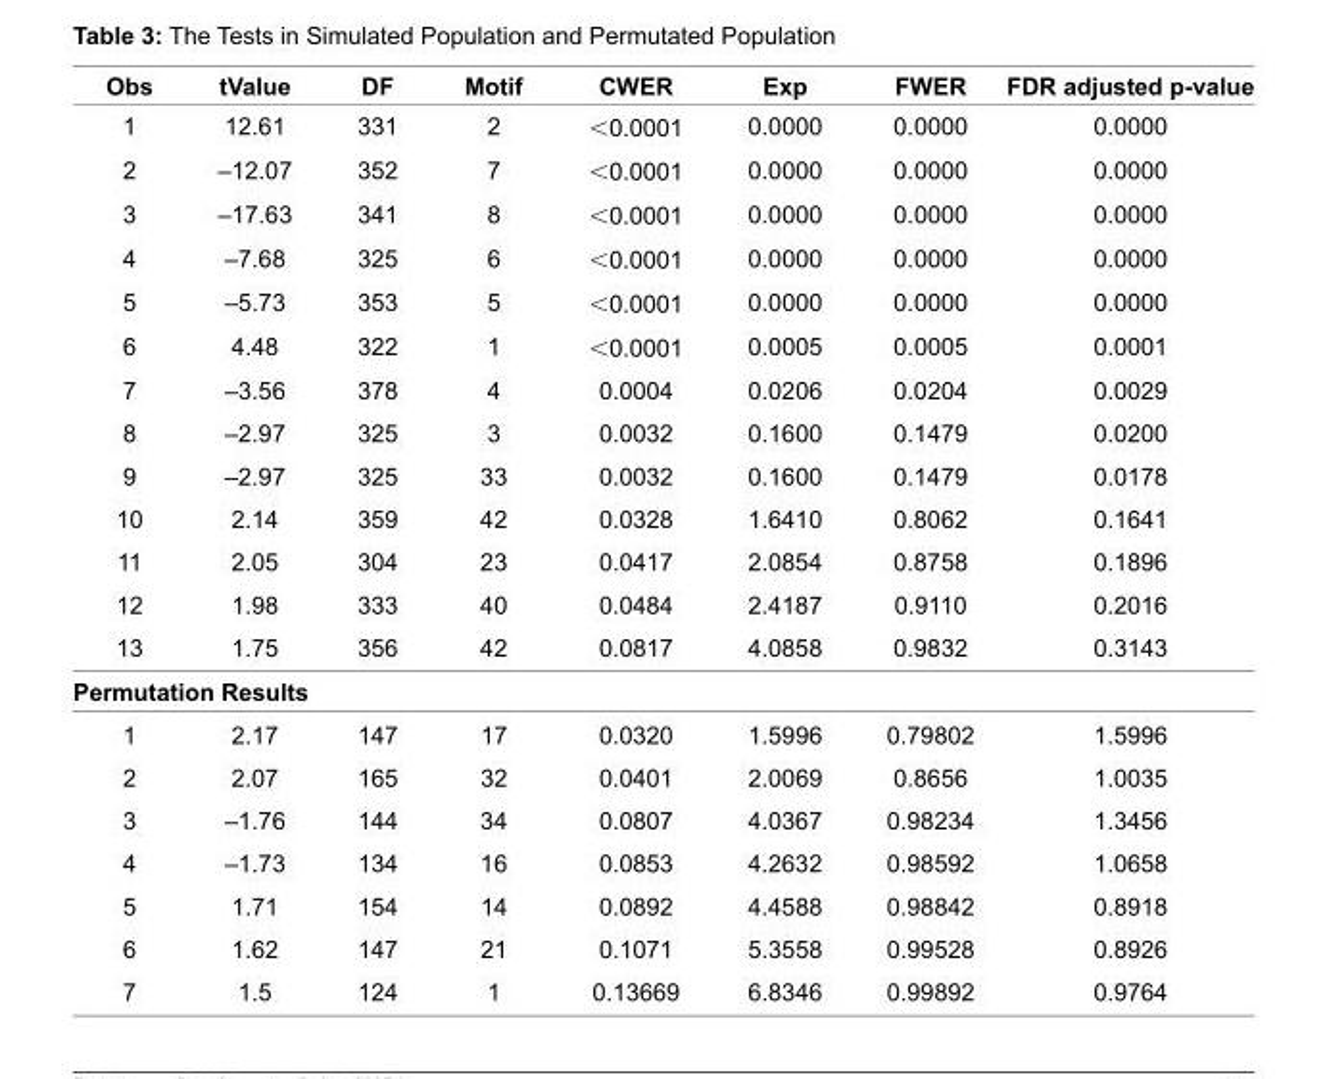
<table><thead><tr><td>Obs</td><td>tValue</td><td>DF</td><td>Motif</td><td>CWER</td><td>Exp</td><td>FWER</td><td>FDR adjusted p-value</td></tr></thead><tbody><tr><td>1</td><td>12.61</td><td>331</td><td>2</td><td>&lt;0.0001</td><td>0.0000</td><td>0.0000</td><td>0.0000</td></tr><tr><td>2</td><td>–12.07</td><td>352</td><td>7</td><td>&lt;0.0001</td><td>0.0000</td><td>0.0000</td><td>0.0000</td></tr><tr><td>3</td><td>–17.63</td><td>341</td><td>8</td><td>&lt;0.0001</td><td>0.0000</td><td>0.0000</td><td>0.0000</td></tr><tr><td>4</td><td>–7.68</td><td>325</td><td>6</td><td>&lt;0.0001</td><td>0.0000</td><td>0.0000</td><td>0.0000</td></tr><tr><td>5</td><td>–5.73</td><td>353</td><td>5</td><td>&lt;0.0001</td><td>0.0000</td><td>0.0000</td><td>0.0000</td></tr><tr><td>6</td><td>4.48</td><td>322</td><td>1</td><td>&lt;0.0001</td><td>0.0005</td><td>0.0005</td><td>0.0001</td></tr><tr><td>7</td><td>–3.56</td><td>378</td><td>4</td><td>0.0004</td><td>0.0206</td><td>0.0204</td><td>0.0029</td></tr><tr><td>8</td><td>–2.97</td><td>325</td><td>3</td><td>0.0032</td><td>0.1600</td><td>0.1479</td><td>0.0200</td></tr><tr><td>9</td><td>–2.97</td><td>325</td><td>33</td><td>0.0032</td><td>0.1600</td><td>0.1479</td><td>0.0178</td></tr><tr><td>10</td><td>2.14</td><td>359</td><td>42</td><td>0.0328</td><td>1.6410</td><td>0.8062</td><td>0.1641</td></tr><tr><td>11</td><td>2.05</td><td>304</td><td>23</td><td>0.0417</td><td>2.0854</td><td>0.8758</td><td>0.1896</td></tr><tr><td>12</td><td>1.98</td><td>333</td><td>40</td><td>0.0484</td><td>2.4187</td><td>0.9110</td><td>0.2016</td></tr><tr><td>13</td><td>1.75</td><td>356</td><td>42</td><td>0.0817</td><td>4.0858</td><td>0.9832</td><td>0.3143</td></tr><tr><td colspan="8">Permutation Results</td></tr><tr><td>1</td><td>2.17</td><td>147</td><td>17</td><td>0.0320</td><td>1.5996</td><td>0.79802</td><td>1.5996</td></tr><tr><td>2</td><td>2.07</td><td>165</td><td>32</td><td>0.0401</td><td>2.0069</td><td>0.8656</td><td>1.0035</td></tr><tr><td>3</td><td>–1.76</td><td>144</td><td>34</td><td>0.0807</td><td>4.0367</td><td>0.98234</td><td>1.3456</td></tr><tr><td>4</td><td>–1.73</td><td>134</td><td>16</td><td>0.0853</td><td>4.2632</td><td>0.98592</td><td>1.0658</td></tr><tr><td>5</td><td>1.71</td><td>154</td><td>14</td><td>0.0892</td><td>4.4588</td><td>0.98842</td><td>0.8918</td></tr><tr><td>6</td><td>1.62</td><td>147</td><td>21</td><td>0.1071</td><td>5.3558</td><td>0.99528</td><td>0.8926</td></tr><tr><td>7</td><td>1.5</td><td>124</td><td>1</td><td>0.13669</td><td>6.8346</td><td>0.99892</td><td>0.9764</td></tr></tbody></table>